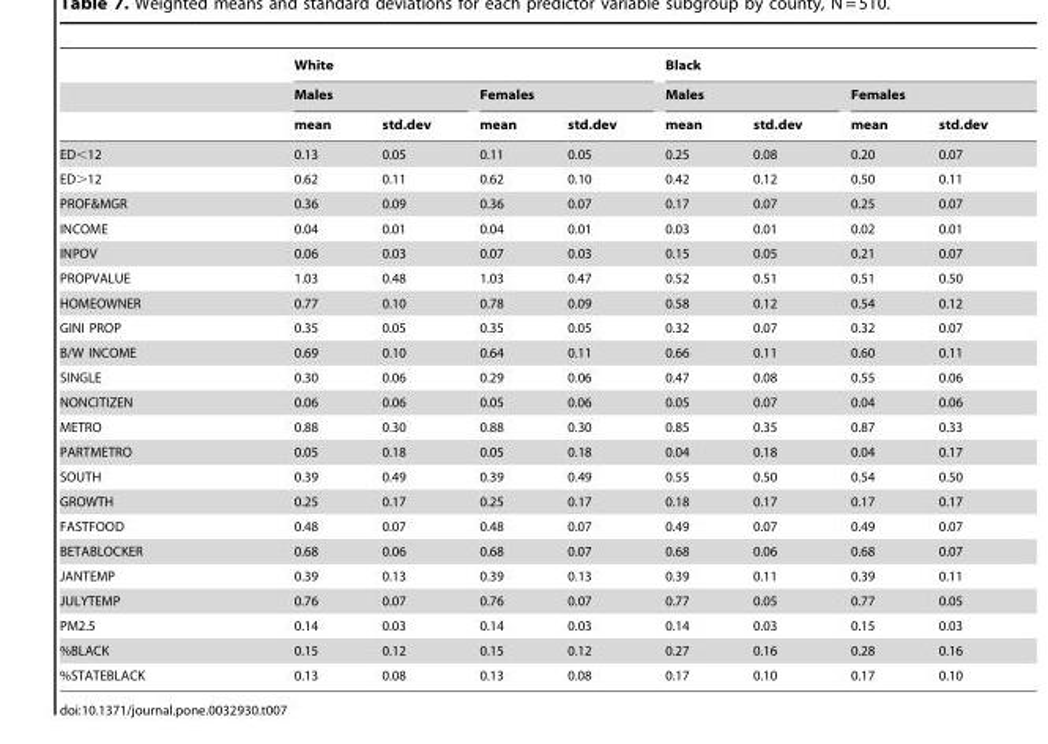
<table><thead><tr><td rowspan="3"></td><td colspan="4">White</td><td colspan="4">Black</td></tr><tr><td colspan="2">Males</td><td colspan="2">Females</td><td colspan="2">Males</td><td colspan="2">Females</td></tr><tr><td>mean</td><td>std.dev</td><td>mean</td><td>std.dev</td><td>mean</td><td>std.dev</td><td>mean</td><td>std.dev</td></tr></thead><tbody><tr><td>ED&lt;12</td><td>0.13</td><td>0.05</td><td>0.11</td><td>0.05</td><td>0.25</td><td>0.08</td><td>0.20</td><td>0.07</td></tr><tr><td>ED&gt;12</td><td>0.62</td><td>0.11</td><td>0.62</td><td>0.10</td><td>0.42</td><td>0.12</td><td>0.50</td><td>0.11</td></tr><tr><td>PROF&amp;MGR</td><td>0.36</td><td>0.09</td><td>0.36</td><td>0.07</td><td>0.17</td><td>0.07</td><td>0.25</td><td>0.07</td></tr><tr><td>INCOME</td><td>0.04</td><td>0.01</td><td>0.04</td><td>0.01</td><td>0.03</td><td>0.01</td><td>0.02</td><td>0.01</td></tr><tr><td>INPOV</td><td>0.06</td><td>0.03</td><td>0.07</td><td>0.03</td><td>0.15</td><td>0.05</td><td>0.21</td><td>0.07</td></tr><tr><td>PROPVALUE</td><td>1.03</td><td>0.48</td><td>1.03</td><td>0.47</td><td>0.52</td><td>0.51</td><td>0.51</td><td>0.50</td></tr><tr><td>HOMEOWNER</td><td>0.77</td><td>0.10</td><td>0.78</td><td>0.09</td><td>0.58</td><td>0.12</td><td>0.54</td><td>0.12</td></tr><tr><td>GINI PROP</td><td>0.35</td><td>0.05</td><td>0.35</td><td>0.05</td><td>0.32</td><td>0.07</td><td>0.32</td><td>0.07</td></tr><tr><td>B/W INCOME</td><td>0.69</td><td>0.10</td><td>0.64</td><td>0.11</td><td>0.66</td><td>0.11</td><td>0.60</td><td>0.11</td></tr><tr><td>SINGLE</td><td>0.30</td><td>0.06</td><td>0.29</td><td>0.06</td><td>0.47</td><td>0.08</td><td>0.55</td><td>0.06</td></tr><tr><td>NONCITIZEN</td><td>0.06</td><td>0.06</td><td>0.05</td><td>0.06</td><td>0.05</td><td>0.07</td><td>0.04</td><td>0.06</td></tr><tr><td>METRO</td><td>0.88</td><td>0.30</td><td>0.88</td><td>0.30</td><td>0.85</td><td>0.35</td><td>0.87</td><td>0.33</td></tr><tr><td>PARTMETRO</td><td>0.05</td><td>0.18</td><td>0.05</td><td>0.18</td><td>0.04</td><td>0.18</td><td>0.04</td><td>0.17</td></tr><tr><td>SOUTH</td><td>0.39</td><td>0.49</td><td>0.39</td><td>0.49</td><td>0.55</td><td>0.50</td><td>0.54</td><td>0.50</td></tr><tr><td>GROWTH</td><td>0.25</td><td>0.17</td><td>0.25</td><td>0.17</td><td>0.18</td><td>0.17</td><td>0.17</td><td>0.17</td></tr><tr><td>FASTFOOD</td><td>0.48</td><td>0.07</td><td>0.48</td><td>0.07</td><td>0.49</td><td>0.07</td><td>0.49</td><td>0.07</td></tr><tr><td>BETABLOCKER</td><td>0.68</td><td>0.06</td><td>0.68</td><td>0.07</td><td>0.68</td><td>0.06</td><td>0.68</td><td>0.07</td></tr><tr><td>JANTEMP</td><td>0.39</td><td>0.13</td><td>0.39</td><td>0.13</td><td>0.39</td><td>0.11</td><td>0.39</td><td>0.11</td></tr><tr><td>JULYTEMP</td><td>0.76</td><td>0.07</td><td>0.76</td><td>0.07</td><td>0.77</td><td>0.05</td><td>0.77</td><td>0.05</td></tr><tr><td>PM2.5</td><td>0.14</td><td>0.03</td><td>0.14</td><td>0.03</td><td>0.14</td><td>0.03</td><td>0.15</td><td>0.03</td></tr><tr><td>%BLACK</td><td>0.15</td><td>0.12</td><td>0.15</td><td>0.12</td><td>0.27</td><td>0.16</td><td>0.28</td><td>0.16</td></tr><tr><td>%STATEBLACK</td><td>0.13</td><td>0.08</td><td>0.13</td><td>0.08</td><td>0.17</td><td>0.10</td><td>0.17</td><td>0.10</td></tr></tbody></table>